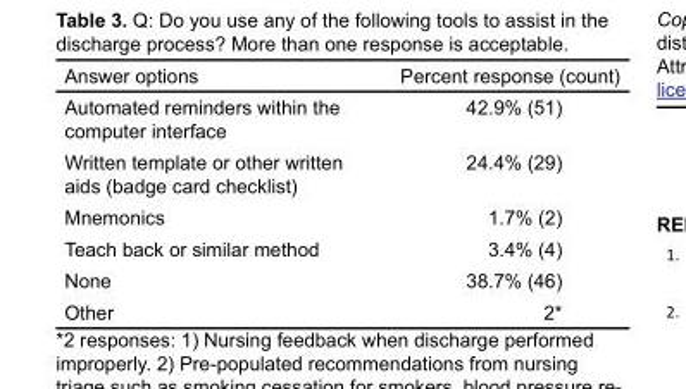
<table><thead><tr><td>Answer options</td><td>Percent response (count)</td></tr></thead><tbody><tr><td>Automated reminders within the computer interface</td><td>42.9% (51)</td></tr><tr><td>Written template or other written aids (badge card checklist)</td><td>24.4% (29)</td></tr><tr><td>Mnemonics</td><td>1.7% (2)</td></tr><tr><td>Teach back or similar method</td><td>3.4% (4)</td></tr><tr><td>None</td><td>38.7% (46)</td></tr><tr><td>Other</td><td>2*</td></tr></tbody></table>